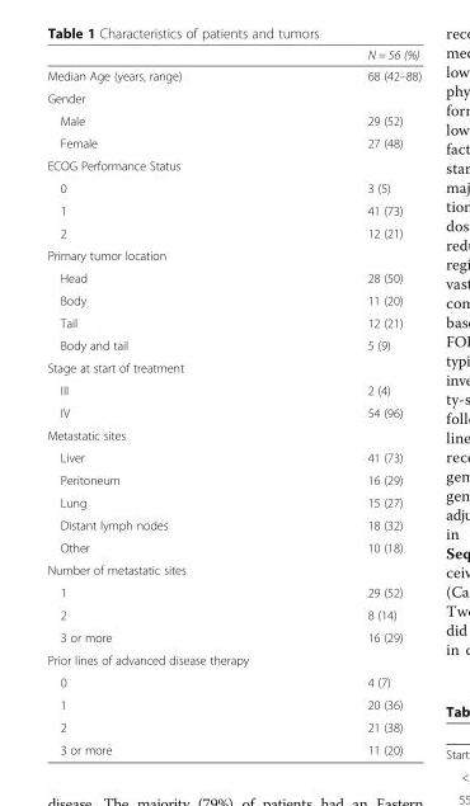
<table><thead><tr><td></td><td>N = 56 (%)</td></tr></thead><tbody><tr><td>Median Age (years, range)</td><td>68 (42–88)</td></tr><tr><td colspan="2">Gender</td></tr><tr><td>Male</td><td>29 (52)</td></tr><tr><td>Female</td><td>27 (48)</td></tr><tr><td colspan="2">ECOG Performance Status</td></tr><tr><td>0</td><td>3 (5)</td></tr><tr><td>1</td><td>41 (73)</td></tr><tr><td>2</td><td>12 (21)</td></tr><tr><td colspan="2">Primary tumor location</td></tr><tr><td>Head</td><td>28 (50)</td></tr><tr><td>Body</td><td>11 (20)</td></tr><tr><td>Tail</td><td>12 (21)</td></tr><tr><td>Body and tail</td><td>5 (9)</td></tr><tr><td colspan="2">Stage at start of treatment</td></tr><tr><td>III</td><td>2 (4)</td></tr><tr><td>IV</td><td>54 (96)</td></tr><tr><td colspan="2">Metastatic sites</td></tr><tr><td>Liver</td><td>41 (73)</td></tr><tr><td>Peritoneum</td><td>16 (29)</td></tr><tr><td>Lung</td><td>15 (27)</td></tr><tr><td>Distant lymph nodes</td><td>18 (32)</td></tr><tr><td>Other</td><td>10 (18)</td></tr><tr><td colspan="2">Number of metastatic sites</td></tr><tr><td>1</td><td>29 (52)</td></tr><tr><td>2</td><td>8 (14)</td></tr><tr><td>3 or more</td><td>16 (29)</td></tr><tr><td colspan="2">Prior lines of advanced disease therapy</td></tr><tr><td>0</td><td>4 (7)</td></tr><tr><td>1</td><td>20 (36)</td></tr><tr><td>2</td><td>21 (38)</td></tr><tr><td>3 or more</td><td>11 (20)</td></tr></tbody></table>